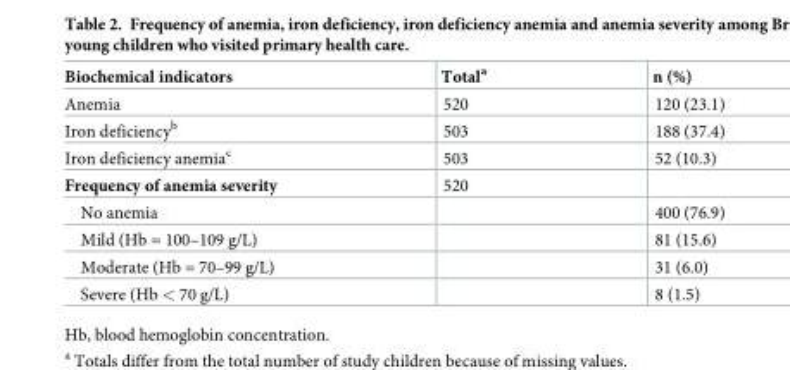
<table><thead><tr><td>Biochemical indicators</td><td>Total<sup>a</sup></td><td>n (%)</td></tr></thead><tbody><tr><td>Anemia</td><td>520</td><td>120 (23.1)</td></tr><tr><td>Iron deficiency<sup>b</sup></td><td>503</td><td>188 (37.4)</td></tr><tr><td>Iron deficiency anemia<sup>c</sup></td><td>503</td><td>52 (10.3)</td></tr><tr><td>Frequency of anemia severity</td><td>520</td><td></td></tr><tr><td>No anemia</td><td></td><td>400 (76.9)</td></tr><tr><td>Mild (Hb = 100–109 g/L)</td><td></td><td>81 (15.6)</td></tr><tr><td>Moderate (Hb = 70–99 g/L)</td><td></td><td>31 (6.0)</td></tr><tr><td>Severe (Hb &lt; 70 g/L)</td><td></td><td>8 (1.5)</td></tr></tbody></table>